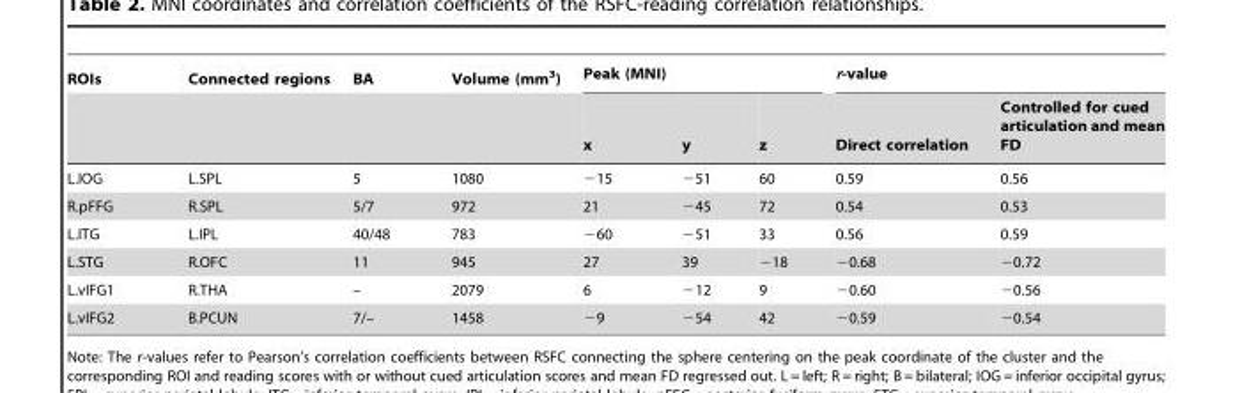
<table><thead><tr><td rowspan="2">ROIs</td><td rowspan="2">Connected regions</td><td rowspan="2">BA</td><td rowspan="2">Volume (mm<sup>3</sup>)</td><td colspan="3">Peak (MNI)</td><td colspan="2">r-value</td></tr><tr><td>x</td><td>y</td><td>z</td><td>Direct correlation</td><td>Controlled for cued articulation and mean FD</td></tr></thead><tbody><tr><td>L.IOG</td><td>L.SPL</td><td>5</td><td>1080</td><td>−15</td><td>−51</td><td>60</td><td>0.59</td><td>0.56</td></tr><tr><td>R.pFFG</td><td>R.SPL</td><td>5/7</td><td>972</td><td>21</td><td>−45</td><td>72</td><td>0.54</td><td>0.53</td></tr><tr><td>L.ITG</td><td>L.IPL</td><td>40/48</td><td>783</td><td>−60</td><td>−51</td><td>33</td><td>0.56</td><td>0.59</td></tr><tr><td>L.STG</td><td>R.OFC</td><td>11</td><td>945</td><td>27</td><td>39</td><td>−18</td><td>−0.68</td><td>−0.72</td></tr><tr><td>L.vIFG1</td><td>R.THA</td><td>–</td><td>2079</td><td>6</td><td>−12</td><td>9</td><td>−0.60</td><td>−0.56</td></tr><tr><td>L.vIFG2</td><td>B.PCUN</td><td>7/–</td><td>1458</td><td>−9</td><td>−54</td><td>42</td><td>−0.59</td><td>−0.54</td></tr></tbody></table>